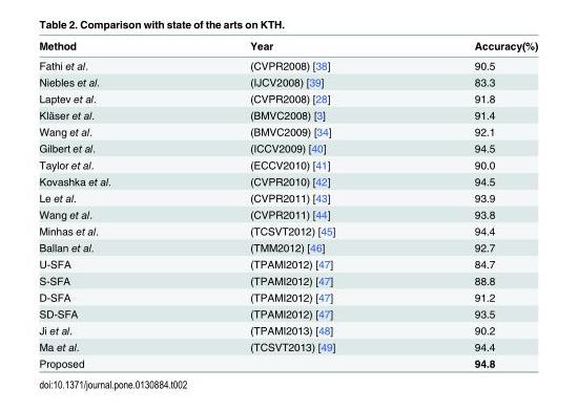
<table><thead><tr><td>Method</td><td>Year</td><td>Accuracy(%)</td></tr></thead><tbody><tr><td>Fathi et al.</td><td>(CVPR2008) [38]</td><td>90.5</td></tr><tr><td>Niebles et al.</td><td>(IJCV2008) [39]</td><td>83.3</td></tr><tr><td>Laptev et al.</td><td>(CVPR2008) [28]</td><td>91.8</td></tr><tr><td>Kläser et al.</td><td>(BMVC2008) [3]</td><td>91.4</td></tr><tr><td>Wang et al.</td><td>(BMVC2009) [34]</td><td>92.1</td></tr><tr><td>Gilbert et al.</td><td>(ICCV2009) [40]</td><td>94.5</td></tr><tr><td>Taylor et al.</td><td>(ECCV2010) [41]</td><td>90.0</td></tr><tr><td>Kovashka et al.</td><td>(CVPR2010) [42]</td><td>94.5</td></tr><tr><td>Le et al.</td><td>(CVPR2011) [43]</td><td>93.9</td></tr><tr><td>Wang et al.</td><td>(CVPR2011) [44]</td><td>93.8</td></tr><tr><td>Minhas et al.</td><td>(TCSVT2012) [45]</td><td>94.4</td></tr><tr><td>Ballan et al.</td><td>(TMM2012) [46]</td><td>92.7</td></tr><tr><td>U-SFA</td><td>(TPAMI2012) [47]</td><td>84.7</td></tr><tr><td>S-SFA</td><td>(TPAMI2012) [47]</td><td>88.8</td></tr><tr><td>D-SFA</td><td>(TPAMI2012) [47]</td><td>91.2</td></tr><tr><td>SD-SFA</td><td>(TPAMI2012) [47]</td><td>93.5</td></tr><tr><td>Ji et al.</td><td>(TPAMI2013) [48]</td><td>90.2</td></tr><tr><td>Ma et al.</td><td>(TCSVT2013) [49]</td><td>94.4</td></tr><tr><td>Proposed</td><td></td><td>94.8</td></tr></tbody></table>